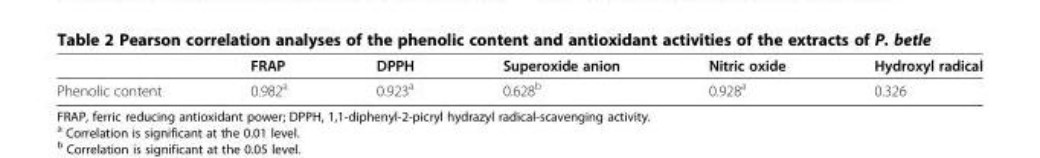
<table><thead><tr><td></td><td>FRAP</td><td>DPPH</td><td>Superoxide anion</td><td>Nitric oxide</td><td>Hydroxyl radical</td></tr></thead><tbody><tr><td>Phenolic content</td><td>0.982<sup>a</sup></td><td>0.923<sup>a</sup></td><td>0.628<sup>b</sup></td><td>0.928<sup>a</sup></td><td>0.326</td></tr></tbody></table>